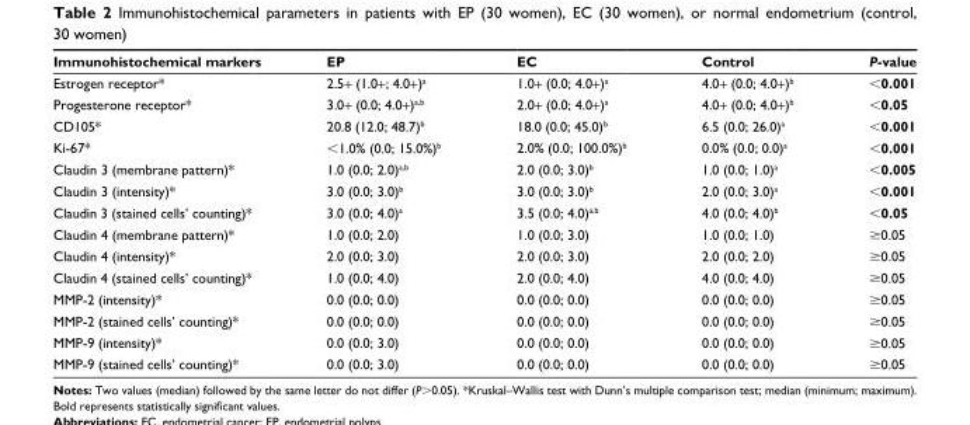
<table><thead><tr><td>Immunohistochemical markers</td><td>EP</td><td>EC</td><td>Control</td><td>P-value</td></tr></thead><tbody><tr><td>estrogen receptor*</td><td>2.5+ (1.0+; 4.0+)<sup>a</sup></td><td>1.0+ (0.0; 4.0+)<sup>a</sup></td><td>4.0+ (0.0; 4.0+)<sup>b</sup></td><td>&lt;0.001</td></tr><tr><td>Progesterone receptor*</td><td>3.0+ (0.0; 4.0+)<sup>a,b</sup></td><td>2.0+ (0.0; 4.0+)<sup>a</sup></td><td>4.0+ (0.0; 4.0+)<sup>b</sup></td><td>&lt;0.05</td></tr><tr><td>cD105*</td><td>20.8 (12.0; 48.7)<sup>b</sup></td><td>18.0 (0.0; 45.0)<sup>b</sup></td><td>6.5 (0.0; 26.0)<sup>a</sup></td><td>&lt;0.001</td></tr><tr><td>Ki-67*</td><td>&lt;1.0% (0.0; 15.0%)<sup>b</sup></td><td>2.0% (0.0; 100.0%)<sup>b</sup></td><td>0.0% (0.0; 0.0)<sup>a</sup></td><td>&lt;0.001</td></tr><tr><td>claudin 3 (membrane pattern)*</td><td>1.0 (0.0; 2.0)<sup>a,b</sup></td><td>2.0 (0.0; 3.0)<sup>b</sup></td><td>1.0 (0.0; 1.0)<sup>a</sup></td><td>&lt;0.005</td></tr><tr><td>claudin 3 (intensity)*</td><td>3.0 (0.0; 3.0)<sup>b</sup></td><td>3.0 (0.0; 3.0)<sup>b</sup></td><td>2.0 (0.0; 3.0)<sup>a</sup></td><td>&lt;0.001</td></tr><tr><td>claudin 3 (stained cells’ counting)*</td><td>3.0 (0.0; 4.0)<sup>a</sup></td><td>3.5 (0.0; 4.0)<sup>a,b</sup></td><td>4.0 (0.0; 4.0)<sup>b</sup></td><td>&lt;0.05</td></tr><tr><td>claudin 4 (membrane pattern)*</td><td>1.0 (0.0; 2.0)</td><td>1.0 (0.0; 3.0)</td><td>1.0 (0.0; 1.0)</td><td>≥0.05</td></tr><tr><td>claudin 4 (intensity)*</td><td>2.0 (0.0; 3.0)</td><td>2.0 (0.0; 3.0)</td><td>2.0 (0.0; 2.0)</td><td>≥0.05</td></tr><tr><td>claudin 4 (stained cells’ counting)*</td><td>1.0 (0.0; 4.0)</td><td>2.0 (0.0; 4.0)</td><td>4.0 (0.0; 4.0)</td><td>≥0.05</td></tr><tr><td>MMP-2 (intensity)*</td><td>0.0 (0.0; 0.0)</td><td>0.0 (0.0; 0.0)</td><td>0.0 (0.0; 0.0)</td><td>≥0.05</td></tr><tr><td>MMP-2 (stained cells’ counting)*</td><td>0.0 (0.0; 0.0)</td><td>0.0 (0.0; 0.0)</td><td>0.0 (0.0; 0.0)</td><td>≥0.05</td></tr><tr><td>MMP-9 (intensity)*</td><td>0.0 (0.0; 3.0)</td><td>0.0 (0.0; 0.0)</td><td>0.0 (0.0; 0.0)</td><td>≥0.05</td></tr><tr><td>MMP-9 (stained cells’ counting)*</td><td>0.0 (0.0; 3.0)</td><td>0.0 (0.0; 0.0)</td><td>0.0 (0.0; 0.0)</td><td>≥0.05</td></tr></tbody></table>